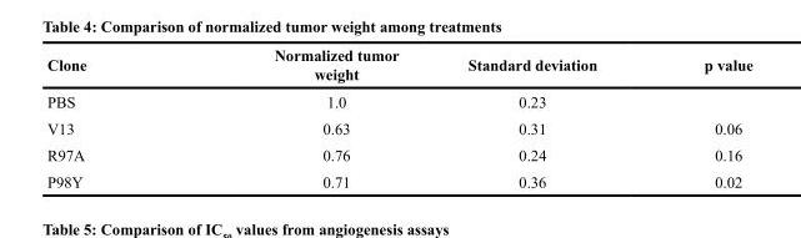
<table><thead><tr><td>Clone</td><td>Normalized tumor weight</td><td>Standard deviation</td><td>p value</td></tr></thead><tbody><tr><td>PBS</td><td>1.0</td><td>0.23</td><td></td></tr><tr><td>V13</td><td>0.63</td><td>0.31</td><td>0.06</td></tr><tr><td>R97A</td><td>0.76</td><td>0.24</td><td>0.16</td></tr><tr><td>P98Y</td><td>0.71</td><td>0.36</td><td>0.02</td></tr></tbody></table>